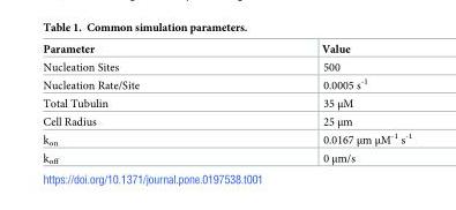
<table><thead><tr><td>Parameter</td><td>Value</td></tr></thead><tbody><tr><td>Nucleation Sites</td><td>500</td></tr><tr><td>Nucleation Rate/Site</td><td>0.0005 s<sup>-1</sup></td></tr><tr><td>Total Tubulin</td><td>35 μM</td></tr><tr><td>Cell Radius</td><td>25 μm</td></tr><tr><td>k<sub>on</sub></td><td>0.0167 μm μM<sup>-1</sup> s<sup>-1</sup></td></tr><tr><td>k<sub>off</sub></td><td>0 μm/s</td></tr></tbody></table>